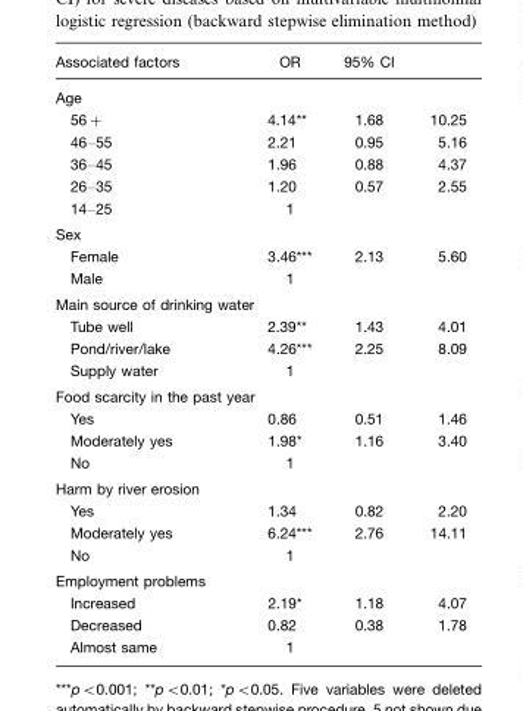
<table><thead><tr><td>Associated factors</td><td>OR</td><td>95% CI</td><td></td></tr></thead><tbody><tr><td colspan="4">Age</td></tr><tr><td>56+</td><td>4.14**</td><td>1.68</td><td>10.25</td></tr><tr><td>46–55</td><td>2.21</td><td>0.95</td><td>5.16</td></tr><tr><td>36–45</td><td>1.96</td><td>0.88</td><td>4.37</td></tr><tr><td>26–35</td><td>1.20</td><td>0.57</td><td>2.55</td></tr><tr><td>14–25</td><td>1</td><td></td><td></td></tr><tr><td colspan="4">Sex</td></tr><tr><td>Female</td><td>3.46***</td><td>2.13</td><td>5.60</td></tr><tr><td>Male</td><td>1</td><td></td><td></td></tr><tr><td colspan="4">Main source of drinking water</td></tr><tr><td>Tube well</td><td>2.39**</td><td>1.43</td><td>4.01</td></tr><tr><td>Pond/river/lake</td><td>4.26***</td><td>2.25</td><td>8.09</td></tr><tr><td>Supply water</td><td>1</td><td></td><td></td></tr><tr><td colspan="4">Food scarcity in the past year</td></tr><tr><td>Yes</td><td>0.86</td><td>0.51</td><td>1.46</td></tr><tr><td>Moderately yes</td><td>1.98*</td><td>1.16</td><td>3.40</td></tr><tr><td>No</td><td>1</td><td></td><td></td></tr><tr><td colspan="4">Harm by river erosion</td></tr><tr><td>Yes</td><td>1.34</td><td>0.82</td><td>2.20</td></tr><tr><td>Moderately yes</td><td>6.24***</td><td>2.76</td><td>14.11</td></tr><tr><td>No</td><td>1</td><td></td><td></td></tr><tr><td colspan="4">Employment problems</td></tr><tr><td>Increased</td><td>2.19*</td><td>1.18</td><td>4.07</td></tr><tr><td>Decreased</td><td>0.82</td><td>0.38</td><td>1.78</td></tr><tr><td>Almost same</td><td>1</td><td></td><td></td></tr></tbody></table>